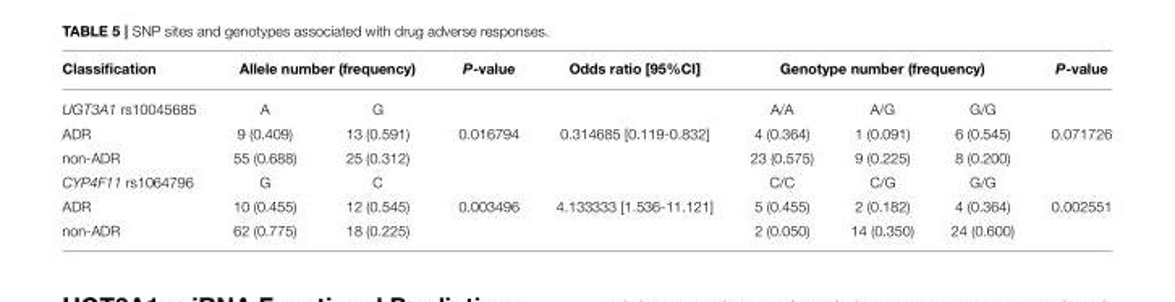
<table><thead><tr><td rowspan="2">Classification UGT3A1 rs10045685</td><td colspan="2">Allele number (frequency)</td><td rowspan="2">P-value</td><td rowspan="2">Odds ratio [95%CI]</td><td colspan="3">Genotype number (frequency)</td><td rowspan="2">P-value</td></tr><tr><td>A</td><td>G</td><td>A/A</td><td>A/G</td><td>G/G</td></tr></thead><tbody><tr><td>ADR</td><td>9 (0.409)</td><td>13 (0.591)</td><td>0.016794</td><td>0.314685 [0.119-0.832]</td><td>4 (0.364)</td><td>1 (0.091)</td><td>6 (0.545)</td><td>0.071726</td></tr><tr><td>non-ADR</td><td>55 (0.688)</td><td>25 (0.312)</td><td></td><td></td><td>23 (0.575)</td><td>9 (0.225)</td><td>8 (0.200)</td><td></td></tr><tr><td>CYP4F11 rs1064796</td><td>G</td><td>C</td><td></td><td></td><td>C/C</td><td>C/G</td><td>G/G</td><td></td></tr><tr><td>ADR</td><td>10 (0.455)</td><td>12 (0.545)</td><td>0.003496</td><td>4.133333 [1.536-11.121]</td><td>5 (0.455)</td><td>2 (0.182)</td><td>4 (0.364)</td><td>0.002551</td></tr><tr><td>non-ADR</td><td>62 (0.775)</td><td>18 (0.225)</td><td></td><td></td><td>2 (0.050)</td><td>14 (0.350)</td><td>24 (0.600)</td><td></td></tr></tbody></table>